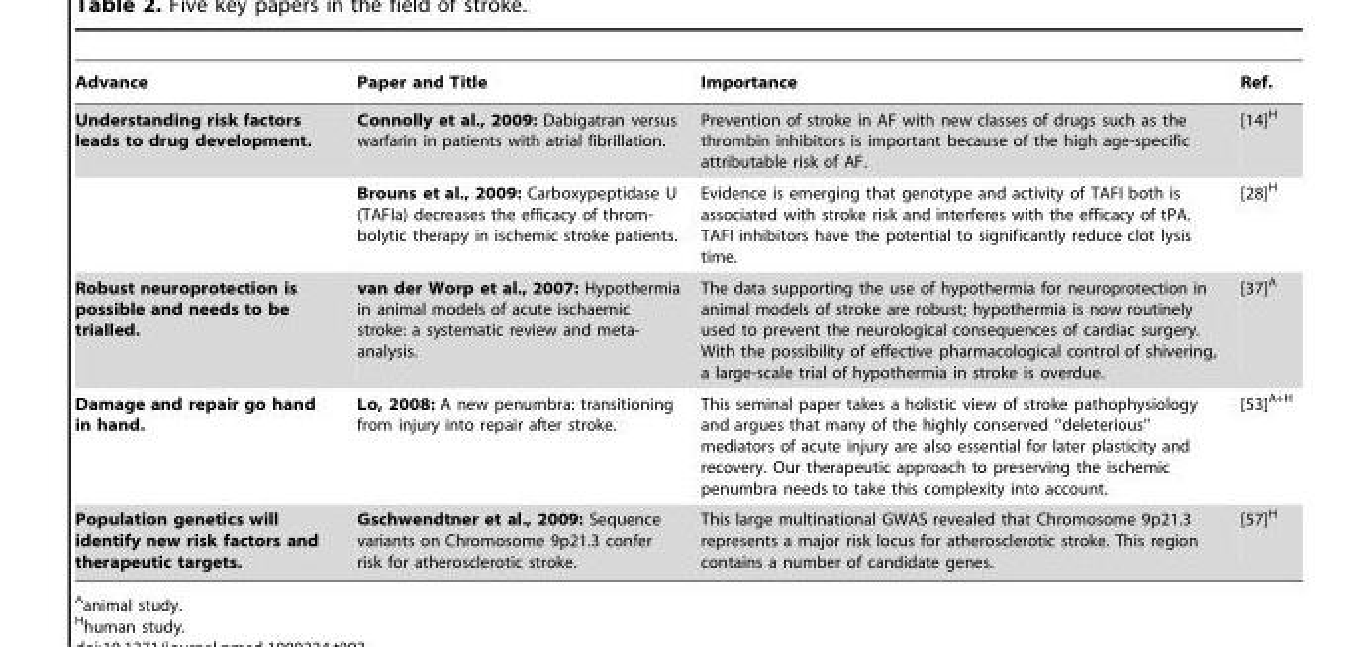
<table><thead><tr><td>Advance</td><td>Paper and Title</td><td>Importance</td><td>Ref.</td></tr></thead><tbody><tr><td rowspan="2">Understanding risk factors leads to drug development.</td><td>Connolly et al., 2009: Dabigatran versus warfarin in patients with atrial fibrillation.</td><td>Prevention of stroke in AF with new classes of drugs such as the thrombin inhibitors is important because of the high age-specific attributable risk of AF.</td><td>[14]H</td></tr><tr><td>Brouns et al., 2009: Carboxypeptidase U (TAFIa) decreases the efficacy of throm- bolytic therapy in ischemic stroke patients.</td><td>Evidence is emerging that genotype and activity of TAFI both is associated with stroke risk and interferes with the efficacy of tPA. TAFI inhibitors have the potential to significantly reduce clot lysis time.</td><td>[28]H</td></tr><tr><td>Robust neuroprotection is possible and needs to be trialled.</td><td>van der Worp et al., 2007: Hypothermia in animal models of acute ischaemic stroke: a systematic review and meta- analysis.</td><td>The data supporting the use of hypothermia for neuroprotection in animal models of stroke are robust; hypothermia is now routinely used to prevent the neurological consequences of cardiac surgery. With the possibility of effective pharmacological control of shivering, a large-scale trial of hypothermia in stroke is overdue.</td><td>[37]A</td></tr><tr><td>Damage and repair go hand in hand.</td><td>Lo, 2008: A new penumbra: transitioning from injury into repair after stroke.</td><td>This seminal paper takes a holistic view of stroke pathophysiology and argues that many of the highly conserved ‘‘deleterious’’ mediators of acute injury are also essential for later plasticity and recovery. Our therapeutic approach to preserving the ischemic penumbra needs to take this complexity into account.</td><td>[53]<sup>A+H</sup></td></tr><tr><td>Population genetics will identify new risk factors and therapeutic targets.</td><td>Gschwendtner et al., 2009: Sequence variants on Chromosome 9p21.3 confer risk for atherosclerotic stroke.</td><td>This large multinational GWAS revealed that Chromosome 9p21.3 represents a major risk locus for atherosclerotic stroke. This region contains a number of candidate genes.</td><td>[57]H</td></tr></tbody></table>